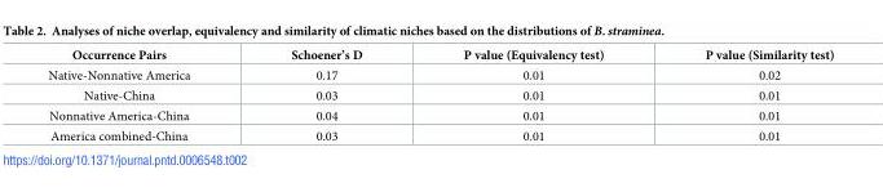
<table><thead><tr><td>Occurrence Pairs</td><td>Schoener’s D</td><td>P value (Equivalency test)</td><td>P value (Similarity test)</td></tr></thead><tbody><tr><td>Native-Nonnative America</td><td>0.17</td><td>0.01</td><td>0.02</td></tr><tr><td>Native-China</td><td>0.03</td><td>0.01</td><td>0.01</td></tr><tr><td>Nonnative America-China</td><td>0.04</td><td>0.01</td><td>0.01</td></tr><tr><td>America combined-China</td><td>0.03</td><td>0.01</td><td>0.01</td></tr></tbody></table>